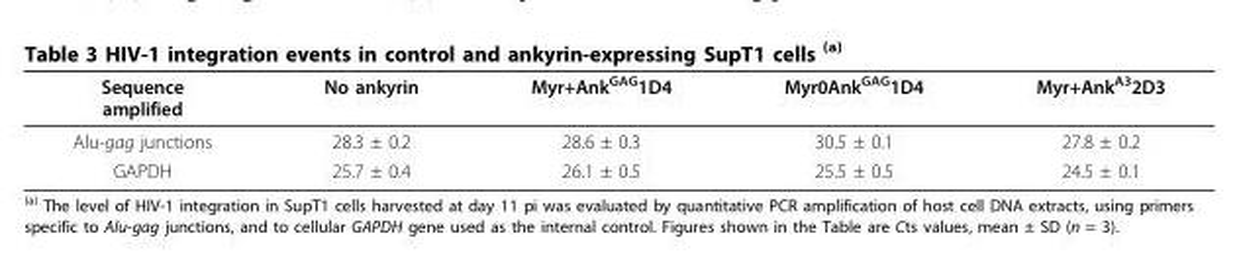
<table><thead><tr><td>Sequence amplified</td><td>No ankyrin</td><td>Myr+Ank<sup>GAG</sup>1D4</td><td>Myr0Ank<sup>GAG</sup>1D4</td><td>Myr+Ank<sup>A3</sup>2D3</td></tr></thead><tbody><tr><td>Alu-gag junctions</td><td>28.3 ± 0.2</td><td>28.6 ± 0.3</td><td>30.5 ± 0.1</td><td>27.8 ± 0.2</td></tr><tr><td>GAPDH</td><td>25.7 ± 0.4</td><td>26.1 ± 0.5</td><td>25.5 ± 0.5</td><td>24.5 ± 0.1</td></tr></tbody></table>